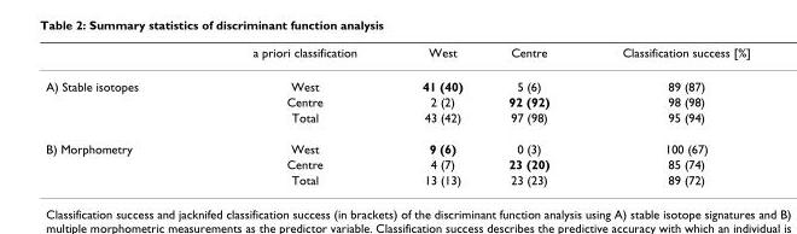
<table><thead><tr><td></td><td>a priori classification</td><td>West</td><td>Centre</td><td>Classification success [%]</td></tr></thead><tbody><tr><td rowspan="3">A) Stable isotopes</td><td>West</td><td>41 (40)</td><td>5 (6)</td><td>89 (87)</td></tr><tr><td>Centre</td><td>2 (2)</td><td>92 (92)</td><td>98 (98)</td></tr><tr><td>Total</td><td>43 (42)</td><td>97 (98)</td><td>95 (94)</td></tr><tr><td rowspan="3">B) Morphometry</td><td>West</td><td>9 (6)</td><td>0 (3)</td><td>100 (67)</td></tr><tr><td>Centre</td><td>4 (7)</td><td>23 (20)</td><td>85 (74)</td></tr><tr><td>Total</td><td>13 (13)</td><td>23 (23)</td><td>89 (72)</td></tr></tbody></table>